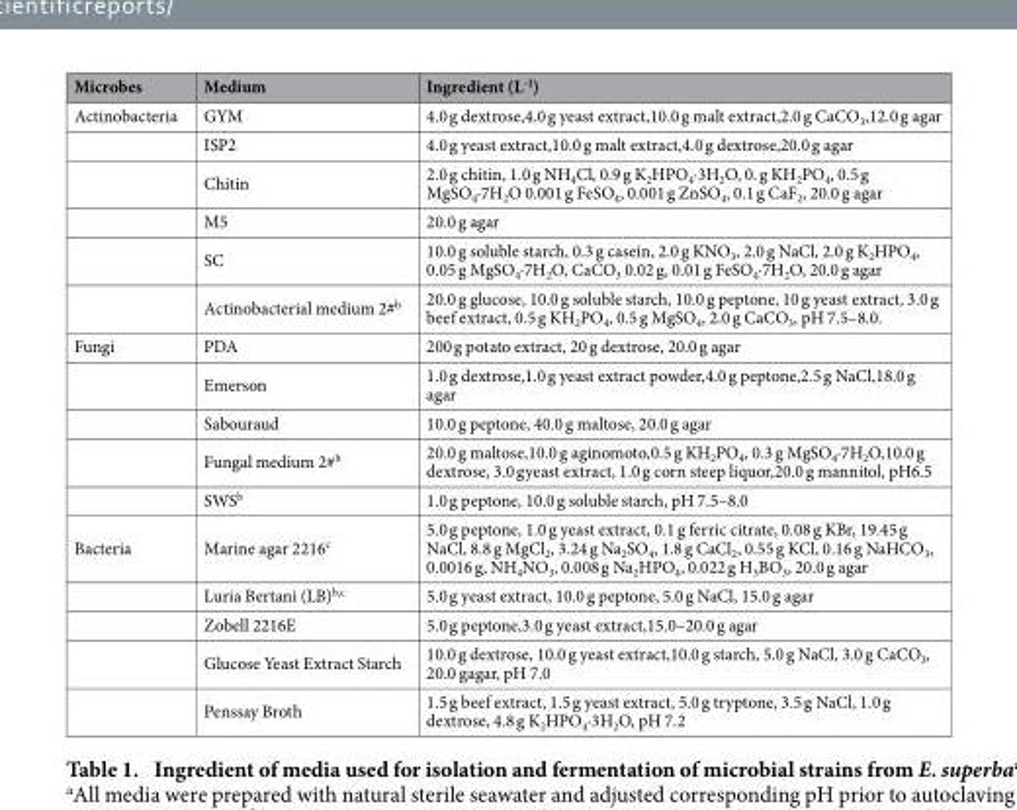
<table><thead><tr><td>Microbes</td><td>Medium</td><td>Ingredient (L<sup>-1</sup>)</td></tr></thead><tbody><tr><td rowspan="6">Actinobacteria</td><td>GYM</td><td>4.0 g dextrose,4.0 g yeast extract,10.0 g malt extract,2.0 g CaCO<sub>3</sub>,12.0 g agar</td></tr><tr><td>ISP2</td><td>4.0 g yeast extract,10.0 g malt extract,4.0 g dextrose,20.0 g agar</td></tr><tr><td>Chitin</td><td>2.0 g chitin, 1.0 g NH<sub>4</sub>Cl, 0.9 g K<sub>2</sub>HPO<sub>4</sub>·3H<sub>2</sub>O, 0. g KH<sub>2</sub>PO<sub>4</sub>, 0.5 g MgSO<sub>4</sub>·7H<sub>2</sub>O 0.001 g FeSO<sub>4</sub>, 0.001 g ZnSO<sub>4</sub>, 0.1 g CaF<sub>2</sub>, 20.0 g agar</td></tr><tr><td>M5</td><td>20.0 g agar</td></tr><tr><td>SC</td><td>10.0 g soluble starch, 0.3 g casein, 2.0 g KNO<sub>3</sub>, 2.0 g NaCl, 2.0 g K<sub>2</sub>HPO<sub>4</sub>, 0.05 g MgSO<sub>4</sub>·7H<sub>2</sub>O, CaCO<sub>3</sub> 0.02 g, 0.01 g FeSO<sub>4</sub>·7H<sub>2</sub>O, 20.0 g agar</td></tr><tr><td>Actinobacterial medium 2#<sup>b</sup></td><td>20.0 g glucose, 10.0 g soluble starch, 10.0 g peptone, 10 g yeast extract, 3.0 g beef extract, 0.5 g KH<sub>2</sub>PO<sub>4</sub>, 0.5 g MgSO<sub>4</sub>, 2.0 g CaCO<sub>3</sub>, pH 7.5–8.0.</td></tr><tr><td rowspan="5">Fungi</td><td>PDA</td><td>200 g potato extract, 20 g dextrose, 20.0 g agar</td></tr><tr><td>Emerson</td><td>1.0 g dextrose,1.0 g yeast extract powder,4.0 g peptone,2.5 g NaCl,18.0 g agar</td></tr><tr><td>Sabouraud</td><td>10.0 g peptone, 40.0 g maltose, 20.0 g agar</td></tr><tr><td>Fungal medium 2#<sup>b</sup></td><td>20.0 g maltose,10.0 g aginomoto,0.5 g KH<sub>2</sub>PO<sub>4</sub>, 0.3 g MgSO<sub>4</sub>·7H<sub>2</sub>O,10.0 g dextrose, 3.0 gyeast extract, 1.0 g corn steep liquor,20.0 g mannitol, pH6.5</td></tr><tr><td>SWS<sup>b</sup></td><td>1.0 g peptone, 10.0 g soluble starch, pH 7.5–8.0</td></tr><tr><td rowspan="5">Bacteria</td><td>Marine agar 2216<sup>c</sup></td><td>5.0 g peptone, 1.0 g yeast extract, 0.1 g ferric citrate, 0.08 g KBr, 19.45 g NaCl, 8.8 g MgCl<sub>2</sub>, 3.24 g Na<sub>2</sub>SO<sub>4</sub>, 1.8 g CaCl<sub>2</sub>, 0.55 g KCl, 0.16 g NaHCO<sub>3</sub>, 0.0016 g, NH<sub>4</sub>NO<sub>3</sub>, 0.008 g Na<sub>2</sub>HPO<sub>4</sub>, 0.022 g H<sub>3</sub>BO<sub>3</sub>, 20.0 g agar</td></tr><tr><td>Luria Bertani (LB)<sup>b</sup>,c</td><td>5.0 g yeast extract, 10.0 g peptone, 5.0 g NaCl, 15.0 g agar</td></tr><tr><td>Zobell 2216E</td><td>5.0 g peptone,3.0 g yeast extract,15.0–20.0 g agar</td></tr><tr><td>Glucose Yeast Extract Starch</td><td>10.0 g dextrose, 10.0 g yeast extract,10.0 g starch, 5.0 g NaCl, 3.0 g CaCO<sub>3</sub>, 20.0 gagar, pH 7.0</td></tr><tr><td>Penssay Broth</td><td>1.5 g beef extract, 1.5 g yeast extract, 5.0 g tryptone, 3.5 g NaCl, 1.0 g dextrose, 4.8 g K<sub>2</sub>HPO<sub>4</sub>·3H<sub>2</sub>O, pH 7.2</td></tr></tbody></table>